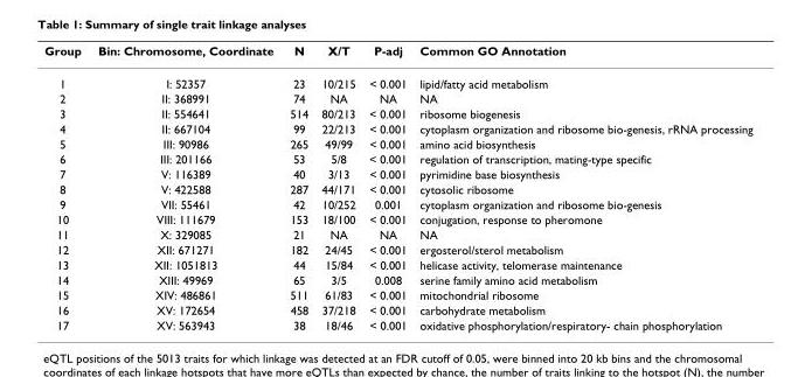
<table><thead><tr><td>Group</td><td>Bin: Chromosome, Coordinate</td><td>N</td><td>X/T</td><td>P-adj</td><td>Common GO Annotation</td></tr></thead><tbody><tr><td>1</td><td>I: 52357</td><td>23</td><td>10/215</td><td>&lt; 0.001</td><td>lipid/fatty acid metabolism</td></tr><tr><td>2</td><td>II: 368991</td><td>74</td><td>NA</td><td>NA</td><td>NA</td></tr><tr><td>3</td><td>II: 554641</td><td>514</td><td>80/213</td><td>&lt; 0.001</td><td>ribosome biogenesis</td></tr><tr><td>4</td><td>II: 667104</td><td>99</td><td>22/213</td><td>&lt; 0.001</td><td>cytoplasm organization and ribosome bio-genesis, rRNA processing</td></tr><tr><td>5</td><td>III: 90986</td><td>265</td><td>49/99</td><td>&lt; 0.001</td><td>amino acid biosynthesis</td></tr><tr><td>6</td><td>III: 201166</td><td>53</td><td>5/8</td><td>&lt; 0.001</td><td>regulation of transcription, mating-type specific</td></tr><tr><td>7</td><td>V: 116389</td><td>40</td><td>3/13</td><td>&lt; 0.001</td><td>pyrimidine base biosynthesis</td></tr><tr><td>8</td><td>V: 422588</td><td>287</td><td>44/171</td><td>&lt; 0.001</td><td>cytosolic ribosome</td></tr><tr><td>9</td><td>VII: 55461</td><td>42</td><td>10/252</td><td>0.001</td><td>cytoplasm organization and ribosome bio-genesis</td></tr><tr><td>10</td><td>VIII: 111679</td><td>153</td><td>18/100</td><td>&lt; 0.001</td><td>conjugation, response to pheromone</td></tr><tr><td>11</td><td>X: 329085</td><td>21</td><td>NA</td><td>NA</td><td>NA</td></tr><tr><td>12</td><td>XII: 671271</td><td>182</td><td>24/45</td><td>&lt; 0.001</td><td>ergosterol/sterol metabolism</td></tr><tr><td>13</td><td>XII: 1051813</td><td>44</td><td>15/84</td><td>&lt; 0.001</td><td>helicase activity, telomerase maintenance</td></tr><tr><td>14</td><td>XIII: 49969</td><td>65</td><td>3/5</td><td>0.008</td><td>serine family amino acid metabolism</td></tr><tr><td>15</td><td>XIV: 486861</td><td>511</td><td>61/83</td><td>&lt; 0.001</td><td>mitochondrial ribosome</td></tr><tr><td>16</td><td>XV: 172654</td><td>458</td><td>37/218</td><td>&lt; 0.001</td><td>carbohydrate metabolism</td></tr><tr><td>17</td><td>XV: 563943</td><td>38</td><td>18/46</td><td>&lt; 0.001</td><td>oxidative phosphorylation/respiratory- chain phosphorylation</td></tr></tbody></table>